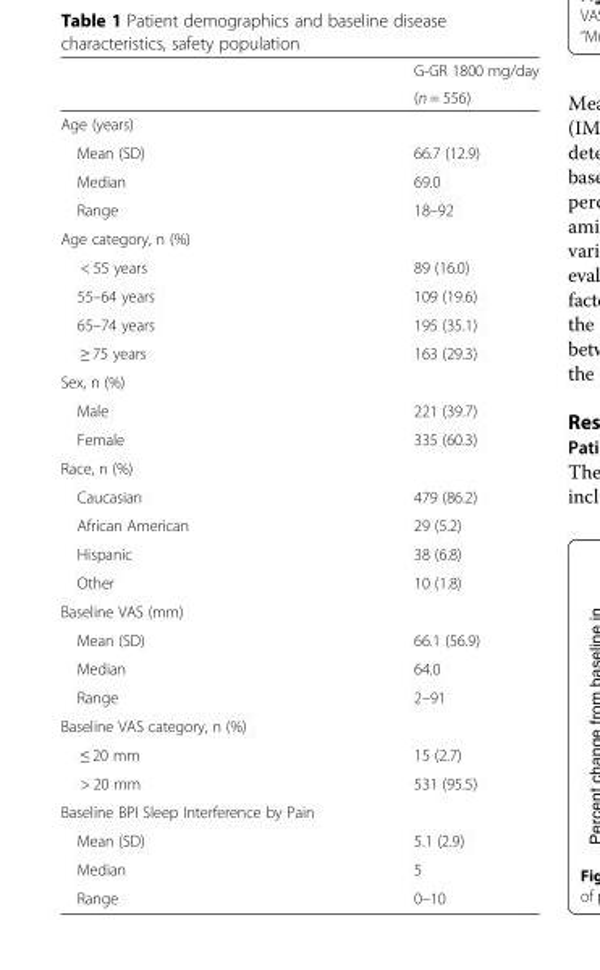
<table><thead><tr><td rowspan="2"></td><td rowspan="2">G-GR 1800 mg/day (n = 556)</td></tr><tr></tr></thead><tbody><tr><td colspan="2">Age (years)</td></tr><tr><td>Mean (SD)</td><td>66.7 (12.9)</td></tr><tr><td>Median</td><td>69.0</td></tr><tr><td>Range</td><td>18–92</td></tr><tr><td colspan="2">Age category, n (%)</td></tr><tr><td>&lt; 55 years</td><td>89 (16.0)</td></tr><tr><td>55–64 years</td><td>109 (19.6)</td></tr><tr><td>65–74 years</td><td>195 (35.1)</td></tr><tr><td>≥ 75 years</td><td>163 (29.3)</td></tr><tr><td colspan="2">Sex, n (%)</td></tr><tr><td>Male</td><td>221 (39.7)</td></tr><tr><td>Female</td><td>335 (60.3)</td></tr><tr><td colspan="2">Race, n (%)</td></tr><tr><td>Caucasian</td><td>479 (86.2)</td></tr><tr><td>African American</td><td>29 (5.2)</td></tr><tr><td>Hispanic</td><td>38 (6.8)</td></tr><tr><td>Other</td><td>10 (1.8)</td></tr><tr><td colspan="2">Baseline VAS (mm)</td></tr><tr><td>Mean (SD)</td><td>66.1 (56.9)</td></tr><tr><td>Median</td><td>64.0</td></tr><tr><td>Range</td><td>2–91</td></tr><tr><td colspan="2">Baseline VAS category, n (%)</td></tr><tr><td>≤ 20 mm</td><td>15 (2.7)</td></tr><tr><td>&gt; 20 mm</td><td>531 (95.5)</td></tr><tr><td colspan="2">Baseline BPI Sleep Interference by Pain</td></tr><tr><td>Mean (SD)</td><td>5.1 (2.9)</td></tr><tr><td>Median</td><td>5</td></tr><tr><td>Range</td><td>0–10</td></tr></tbody></table>